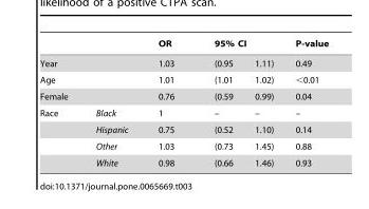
<table><thead><tr><td rowspan="2">Year</td><td rowspan="2"></td><td rowspan="2">OR 1.03</td><td colspan="2">95% CI</td><td rowspan="2">P-value 0.49</td></tr><tr><td>(0.95</td><td>1.11)</td></tr></thead><tbody><tr><td>Age</td><td></td><td>1.01</td><td>(1.01</td><td>1.02)</td><td>&lt;0.01</td></tr><tr><td>Female</td><td></td><td>0.76</td><td>(0.59</td><td>0.99)</td><td>0.04</td></tr><tr><td rowspan="4">Race</td><td>Black</td><td>1</td><td>–</td><td>–</td><td>–</td></tr><tr><td>Hispanic</td><td>0.75</td><td>(0.52</td><td>1.10)</td><td>0.14</td></tr><tr><td>Other</td><td>1.03</td><td>(0.73</td><td>1.45)</td><td>0.88</td></tr><tr><td>White</td><td>0.98</td><td>(0.66</td><td>1.46)</td><td>0.93</td></tr></tbody></table>